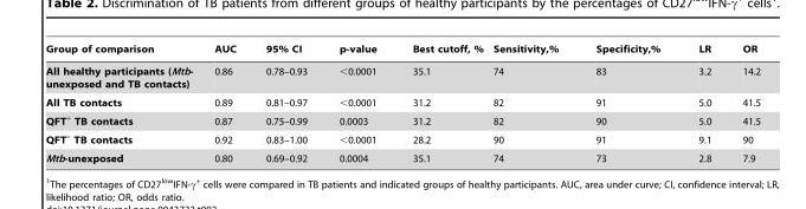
<table><thead><tr><td>Group of comparison</td><td>AUC</td><td>95% CI</td><td>p-value</td><td>Best cutoff, %</td><td>Sensitivity,%</td><td>Specificity,%</td><td>LR</td><td>OR</td></tr></thead><tbody><tr><td>All healthy participants (Mtb- unexposed and TB contacts)</td><td>0.86</td><td>0.78–0.93</td><td>&lt;0.0001</td><td>35.1</td><td>74</td><td>83</td><td>3.2</td><td>14.2</td></tr><tr><td>All TB contacts</td><td>0.89</td><td>0.81–0.97</td><td>&lt;0.0001</td><td>31.2</td><td>82</td><td>91</td><td>5.0</td><td>41.5</td></tr><tr><td>QFT<sup>+</sup> TB contacts</td><td>0.87</td><td>0.75–0.99</td><td>0.0003</td><td>31.2</td><td>82</td><td>90</td><td>5.0</td><td>41.5</td></tr><tr><td>QFT<sup>–</sup> TB contacts</td><td>0.92</td><td>0.83–1.00</td><td>&lt;0.0001</td><td>28.2</td><td>90</td><td>91</td><td>9.1</td><td>90</td></tr><tr><td>Mtb-unexposed</td><td>0.80</td><td>0.69–0.92</td><td>0.0004</td><td>35.1</td><td>74</td><td>73</td><td>2.8</td><td>7.9</td></tr></tbody></table>